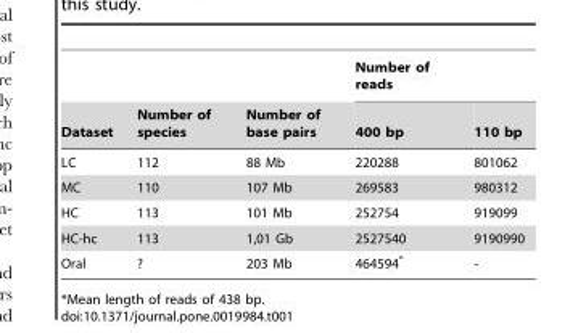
<table><thead><tr><td rowspan="2">Dataset</td><td rowspan="2">Number of species</td><td rowspan="2">Number of base pairs</td><td colspan="2">Number of reads</td></tr><tr><td>400 bp</td><td>110 bp</td></tr></thead><tbody><tr><td>LC</td><td>112</td><td>88 Mb</td><td>220288</td><td>801062</td></tr><tr><td>MC</td><td>110</td><td>107 Mb</td><td>269583</td><td>980312</td></tr><tr><td>HC</td><td>113</td><td>101 Mb</td><td>252754</td><td>919099</td></tr><tr><td>HC-hc</td><td>113</td><td>1,01 Gb</td><td>2527540</td><td>9190990</td></tr><tr><td>Oral</td><td>?</td><td>203 Mb</td><td>464594*</td><td>-</td></tr></tbody></table>